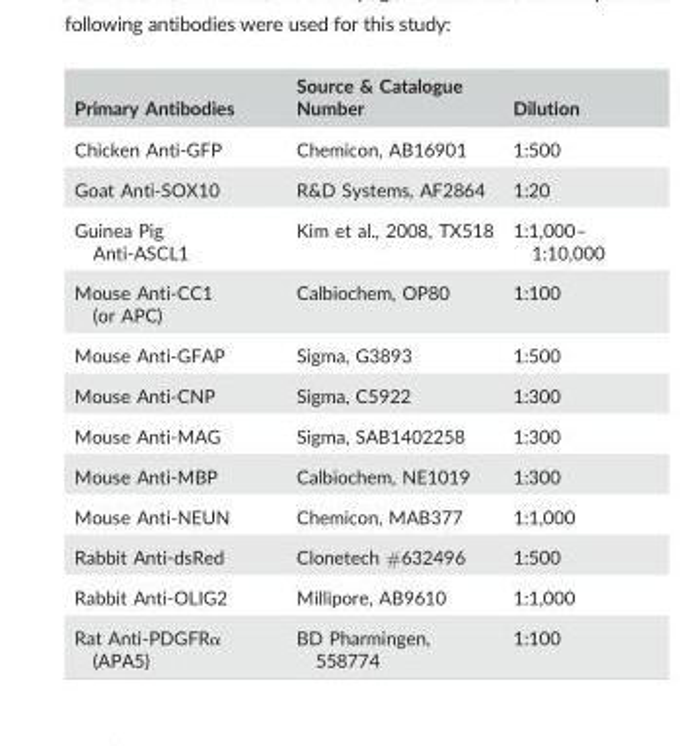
<table><thead><tr><td>Primary Antibodies</td><td>Source &amp; Catalogue Number</td><td>Dilution</td></tr></thead><tbody><tr><td>Chicken Anti-GFP</td><td>Chemicon, AB16901</td><td>1:500</td></tr><tr><td>Goat Anti-SOX10</td><td>R&amp;D Systems, AF2864</td><td>1:20</td></tr><tr><td>Guinea Pig Anti-ASCL1</td><td>Kim et al., 2008, TX518</td><td>1:1,000– 1:10,000</td></tr><tr><td>Mouse Anti-CC1 (or APC)</td><td>Calbiochem, OP80</td><td>1:100</td></tr><tr><td>Mouse Anti-GFAP</td><td>Sigma, G3893</td><td>1:500</td></tr><tr><td>Mouse Anti-CNP</td><td>Sigma, C5922</td><td>1:300</td></tr><tr><td>Mouse Anti-MAG</td><td>Sigma, SAB1402258</td><td>1:300</td></tr><tr><td>Mouse Anti-MBP</td><td>Calbiochem, NE1019</td><td>1:300</td></tr><tr><td>Mouse Anti-NEUN</td><td>Chemicon, MAB377</td><td>1:1,000</td></tr><tr><td>Rabbit Anti-dsRed</td><td>Clonetech #632496</td><td>1:500</td></tr><tr><td>Rabbit Anti-OLIG2</td><td>Millipore, AB9610</td><td>1:1,000</td></tr><tr><td>Rat Anti-PDGFRα (APA5)</td><td>BD Pharmingen, 558774</td><td>1:100</td></tr></tbody></table>